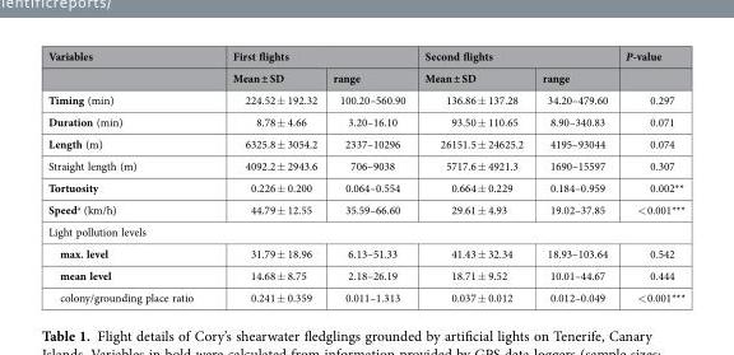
<table><thead><tr><td rowspan="2">Variables</td><td colspan="2">First flights</td><td colspan="2">Second flights</td><td rowspan="2">P-value</td></tr><tr><td>Mean ± SD</td><td>range</td><td>Mean ± SD</td><td>range</td></tr></thead><tbody><tr><td>Timing (min)</td><td>224.52 ± 192.32</td><td>100.20–560.90</td><td>136.86 ± 137.28</td><td>34.20–479.60</td><td>0.297</td></tr><tr><td>Duration (min)</td><td>8.78 ± 4.66</td><td>3.20–16.10</td><td>93.50 ± 110.65</td><td>8.90–340.83</td><td>0.071</td></tr><tr><td>Length (m)</td><td>6325.8 ± 3054.2</td><td>2337–10296</td><td>26151.5 ± 24625.2</td><td>4195–93044</td><td>0.074</td></tr><tr><td>Straight length (m)</td><td>4092.2 ± 2943.6</td><td>706–9038</td><td>5717.6 ± 4921.3</td><td>1690–15597</td><td>0.307</td></tr><tr><td>Tortuosity</td><td>0.226 ± 0.200</td><td>0.064–0.554</td><td>0.664 ± 0.229</td><td>0.184–0.959</td><td>0.002**</td></tr><tr><td>Speed<sup>a</sup> (km/h)</td><td>44.79 ± 12.55</td><td>35.59–66.60</td><td>29.61 ± 4.93</td><td>19.02–37.85</td><td>&lt; 0.001***</td></tr><tr><td colspan="6">Light pollution levels</td></tr><tr><td>max. level</td><td>31.79 ± 18.96</td><td>6.13–51.33</td><td>41.43 ± 32.34</td><td>18.93–103.64</td><td>0.542</td></tr><tr><td>mean level</td><td>14.68 ± 8.75</td><td>2.18–26.19</td><td>18.71 ± 9.52</td><td>10.01–44.67</td><td>0.444</td></tr><tr><td>colony/grounding place ratio</td><td>0.241 ± 0.359</td><td>0.011–1.313</td><td>0.037 ± 0.012</td><td>0.012–0.049</td><td>&lt; 0.001***</td></tr></tbody></table>